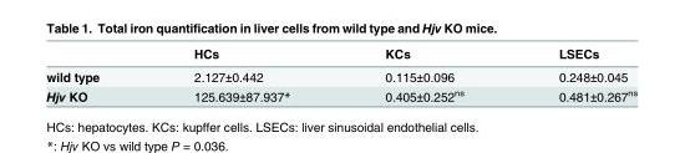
<table><thead><tr><td></td><td>HCs</td><td>KCs</td><td>LSECs</td></tr></thead><tbody><tr><td>wild type</td><td>2.127±0.442</td><td>0.115±0.096</td><td>0.248±0.045</td></tr><tr><td>Hjv KO</td><td>125.639±87.937*</td><td>0.405±0.252<sup>ns</sup></td><td>0.481±0.267<sup>ns</sup></td></tr></tbody></table>